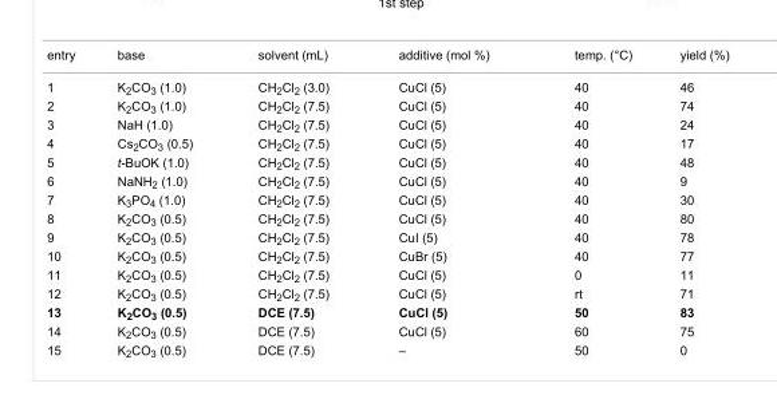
<table><tbody><tr><td>entry</td><td>base</td><td>solvent (mL)</td><td>additive (mol %)</td><td>temp. (°C)</td><td>yield (%)</td></tr><tr><td>1</td><td>K<sub>2</sub>CO<sub>3</sub> (1.0)</td><td>CH<sub>2</sub>Cl<sub>2</sub> (3.0)</td><td>CuCl (5)</td><td>40</td><td>46</td></tr><tr><td>2</td><td>K<sub>2</sub>CO<sub>3</sub> (1.0)</td><td>CH<sub>2</sub>Cl<sub>2</sub> (7.5)</td><td>CuCl (5)</td><td>40</td><td>74</td></tr><tr><td>3</td><td>NaH (1.0)</td><td>CH<sub>2</sub>Cl<sub>2</sub> (7.5)</td><td>CuCl (5)</td><td>40</td><td>24</td></tr><tr><td>4</td><td>Cs<sub>2</sub>CO<sub>3</sub> (0.5)</td><td>CH<sub>2</sub>Cl<sub>2</sub> (7.5)</td><td>CuCl (5)</td><td>40</td><td>17</td></tr><tr><td>5</td><td>t-BuOK (1.0)</td><td>CH<sub>2</sub>Cl<sub>2</sub> (7.5)</td><td>CuCl (5)</td><td>40</td><td>48</td></tr><tr><td>6</td><td>NaNH<sub>2</sub> (1.0)</td><td>CH<sub>2</sub>Cl<sub>2</sub> (7.5)</td><td>CuCl (5)</td><td>40</td><td>9</td></tr><tr><td>7</td><td>K<sub>3</sub>PO<sub>4</sub> (1.0)</td><td>CH<sub>2</sub>Cl<sub>2</sub> (7.5)</td><td>CuCl (5)</td><td>40</td><td>30</td></tr><tr><td>8</td><td>K<sub>2</sub>CO<sub>3</sub> (0.5)</td><td>CH<sub>2</sub>Cl<sub>2</sub> (7.5)</td><td>CuCl (5)</td><td>40</td><td>80</td></tr><tr><td>9</td><td>K<sub>2</sub>CO<sub>3</sub> (0.5)</td><td>CH<sub>2</sub>Cl<sub>2</sub> (7.5)</td><td>CuI (5)</td><td>40</td><td>78</td></tr><tr><td>10</td><td>K<sub>2</sub>CO<sub>3</sub> (0.5)</td><td>CH<sub>2</sub>Cl<sub>2</sub> (7.5)</td><td>CuBr (5)</td><td>40</td><td>77</td></tr><tr><td>11</td><td>K<sub>2</sub>CO<sub>3</sub> (0.5)</td><td>CH<sub>2</sub>Cl<sub>2</sub> (7.5)</td><td>CuCl (5)</td><td>0</td><td>11</td></tr><tr><td>12</td><td>K<sub>2</sub>CO<sub>3</sub> (0.5)</td><td>CH<sub>2</sub>Cl<sub>2</sub> (7.5)</td><td>CuCl (5)</td><td>rt</td><td>71</td></tr><tr><td>13</td><td>K<sub>2</sub>CO<sub>3</sub> (0.5)</td><td>DCE (7.5)</td><td>CuCl (5)</td><td>50</td><td>83</td></tr><tr><td>14</td><td>K<sub>2</sub>CO<sub>3</sub> (0.5)</td><td>DCE (7.5)</td><td>CuCl (5)</td><td>60</td><td>75</td></tr><tr><td>15</td><td>K<sub>2</sub>CO<sub>3</sub> (0.5)</td><td>DCE (7.5)</td><td>–</td><td>50</td><td>0</td></tr></tbody></table>